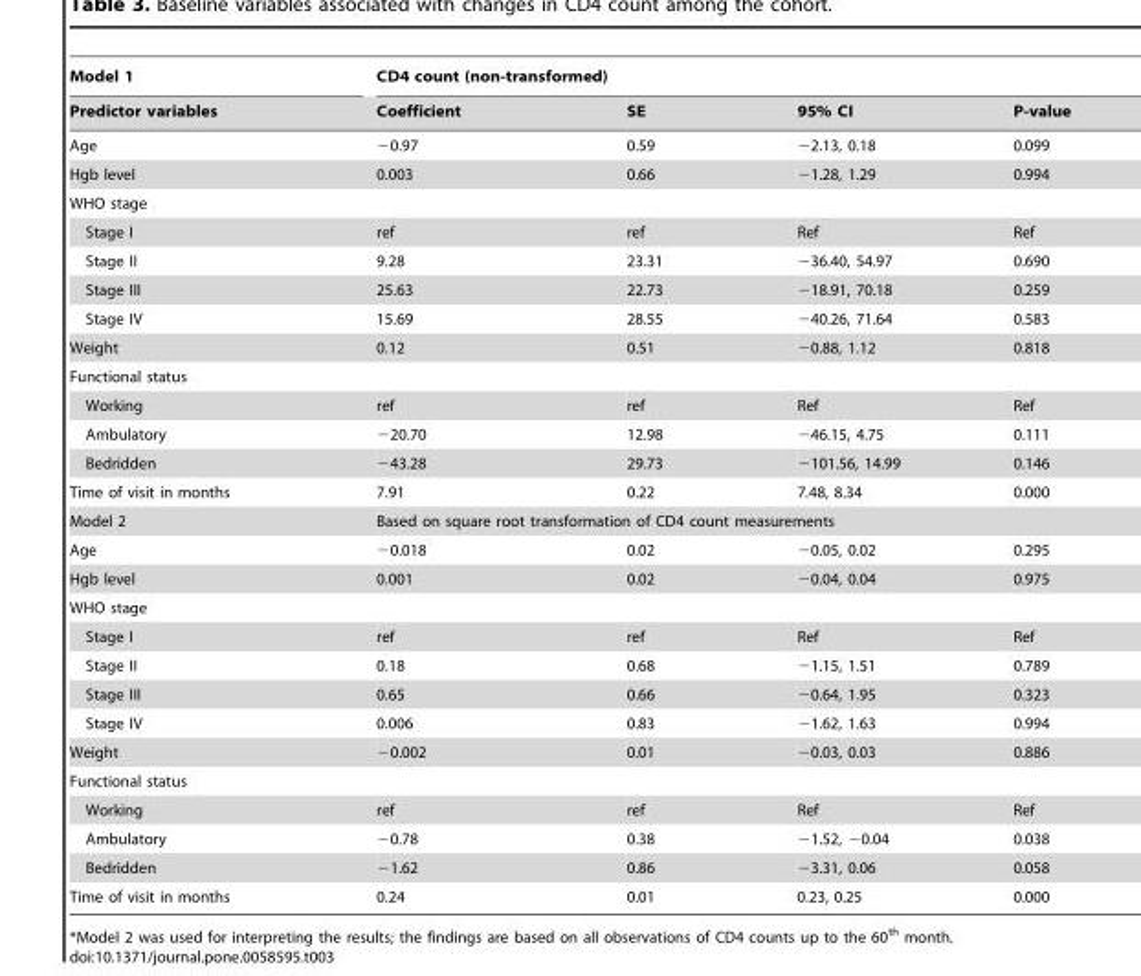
<table><thead><tr><td rowspan="2">Model 1 Predictor variables</td><td colspan="4">CD4 count (non-transformed)</td></tr><tr><td>Coefficient</td><td>SE</td><td>95% CI</td><td>P-value</td></tr></thead><tbody><tr><td>Age</td><td>−0.97</td><td>0.59</td><td>−2.13, 0.18</td><td>0.099</td></tr><tr><td>Hgb level</td><td>0.003</td><td>0.66</td><td>−1.28, 1.29</td><td>0.994</td></tr><tr><td colspan="5">WHO stage</td></tr><tr><td>Stage I</td><td>ref</td><td>ref</td><td>Ref</td><td>Ref</td></tr><tr><td>Stage II</td><td>9.28</td><td>23.31</td><td>−36.40, 54.97</td><td>0.690</td></tr><tr><td>Stage III</td><td>25.63</td><td>22.73</td><td>−18.91, 70.18</td><td>0.259</td></tr><tr><td>Stage IV</td><td>15.69</td><td>28.55</td><td>−40.26, 71.64</td><td>0.583</td></tr><tr><td>Weight</td><td>0.12</td><td>0.51</td><td>−0.88, 1.12</td><td>0.818</td></tr><tr><td colspan="5">Functional status</td></tr><tr><td>Working</td><td>ref</td><td>ref</td><td>Ref</td><td>Ref</td></tr><tr><td>Ambulatory</td><td>−20.70</td><td>12.98</td><td>−46.15, 4.75</td><td>0.111</td></tr><tr><td>Bedridden</td><td>−43.28</td><td>29.73</td><td>−101.56, 14.99</td><td>0.146</td></tr><tr><td>Time of visit in months</td><td>7.91</td><td>0.22</td><td>7.48, 8.34</td><td>0.000</td></tr><tr><td>Model 2</td><td colspan="4">Based on square root transformation of CD4 count measurements</td></tr><tr><td>Age</td><td>−0.018</td><td>0.02</td><td>−0.05, 0.02</td><td>0.295</td></tr><tr><td>Hgb level</td><td>0.001</td><td>0.02</td><td>−0.04, 0.04</td><td>0.975</td></tr><tr><td colspan="5">WHO stage</td></tr><tr><td>Stage I</td><td>ref</td><td>ref</td><td>Ref</td><td>Ref</td></tr><tr><td>Stage II</td><td>0.18</td><td>0.68</td><td>−1.15, 1.51</td><td>0.789</td></tr><tr><td>Stage III</td><td>0.65</td><td>0.66</td><td>−0.64, 1.95</td><td>0.323</td></tr><tr><td>Stage IV</td><td>0.006</td><td>0.83</td><td>−1.62, 1.63</td><td>0.994</td></tr><tr><td>Weight</td><td>−0.002</td><td>0.01</td><td>−0.03, 0.03</td><td>0.886</td></tr><tr><td colspan="5">Functional status</td></tr><tr><td>Working</td><td>ref</td><td>ref</td><td>Ref</td><td>Ref</td></tr><tr><td>Ambulatory</td><td>−0.78</td><td>0.38</td><td>−1.52, −0.04</td><td>0.038</td></tr><tr><td>Bedridden</td><td>−1.62</td><td>0.86</td><td>−3.31, 0.06</td><td>0.058</td></tr><tr><td>Time of visit in months</td><td>0.24</td><td>0.01</td><td>0.23, 0.25</td><td>0.000</td></tr></tbody></table>